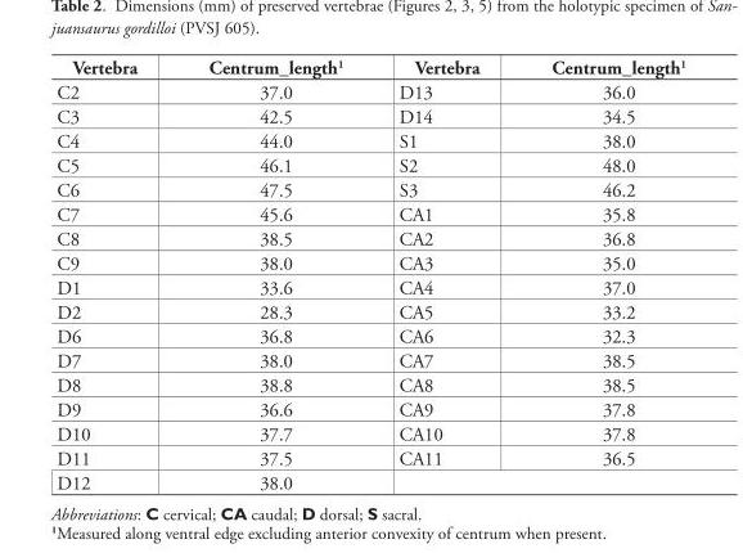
<table><thead><tr><td>Vertebra</td><td>Centrum_length1</td><td>Vertebra</td><td>Centrum_length1</td></tr></thead><tbody><tr><td>C2</td><td>37.0</td><td>D13</td><td>36.0</td></tr><tr><td>C3</td><td>42.5</td><td>D14</td><td>34.5</td></tr><tr><td>C4</td><td>44.0</td><td>S1</td><td>38.0</td></tr><tr><td>C5</td><td>46.1</td><td>S2</td><td>48.0</td></tr><tr><td>C6</td><td>47.5</td><td>S3</td><td>46.2</td></tr><tr><td>C7</td><td>45.6</td><td>CA1</td><td>35.8</td></tr><tr><td>C8</td><td>38.5</td><td>CA2</td><td>36.8</td></tr><tr><td>C9</td><td>38.0</td><td>CA3</td><td>35.0</td></tr><tr><td>D1</td><td>33.6</td><td>CA4</td><td>37.0</td></tr><tr><td>D2</td><td>28.3</td><td>CA5</td><td>33.2</td></tr><tr><td>D6</td><td>36.8</td><td>CA6</td><td>32.3</td></tr><tr><td>D7</td><td>38.0</td><td>CA7</td><td>38.5</td></tr><tr><td>D8</td><td>38.8</td><td>CA8</td><td>38.5</td></tr><tr><td>D9</td><td>36.6</td><td>CA9</td><td>37.8</td></tr><tr><td>D10</td><td>37.7</td><td>CA10</td><td>37.8</td></tr><tr><td>D11</td><td>37.5</td><td>CA11</td><td>36.5</td></tr><tr><td>D12</td><td>38.0</td><td></td><td></td></tr></tbody></table>